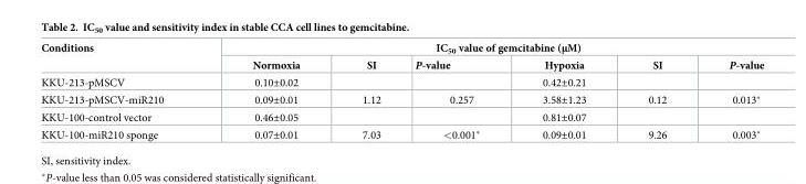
<table><thead><tr><td rowspan="2">Conditions</td><td colspan="6">IC<sub>50</sub> value of gemcitabine (μM)</td></tr><tr><td>Normoxia</td><td>SI</td><td>P-value</td><td>Hypoxia</td><td>SI</td><td>P-value</td></tr></thead><tbody><tr><td>KKU-213-pMSCV</td><td>0.10±0.02</td><td></td><td></td><td>0.42±0.21</td><td></td><td></td></tr><tr><td>KKU-213-pMSCV-miR210</td><td>0.09±0.01</td><td>1.12</td><td>0.257</td><td>3.58±1.23</td><td>0.12</td><td>0.013*</td></tr><tr><td>KKU-100-control vector</td><td>0.46±0.05</td><td></td><td></td><td>0.81±0.07</td><td></td><td></td></tr><tr><td>KKU-100-miR210 sponge</td><td>0.07±0.01</td><td>7.03</td><td>&lt;0.001*</td><td>0.09±0.01</td><td>9.26</td><td>0.003*</td></tr></tbody></table>